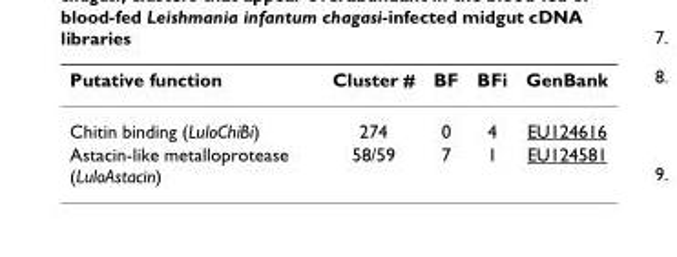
<table><thead><tr><td>Putative function</td><td>Cluster #</td><td>BF</td><td>BFi</td><td>GenBank</td></tr></thead><tbody><tr><td>Chitin binding (LuloChiBi)</td><td>274</td><td>0</td><td>4</td><td>EU124616</td></tr><tr><td>Astacin-like metalloprotease (LuloAstacin)</td><td>58/59</td><td>7</td><td>1</td><td>EU124581</td></tr></tbody></table>